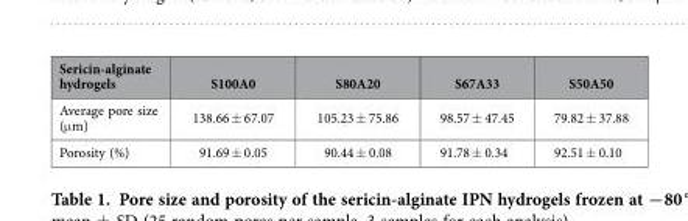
<table><thead><tr><td>Sericin-alginate hydrogels</td><td>S100A0</td><td>S80A20</td><td>S67A33</td><td>S50A50</td></tr></thead><tbody><tr><td>Average pore size (μ m)</td><td>138.66 ± 67.07</td><td>105.23 ± 75.86</td><td>98.57 ± 47.45</td><td>79.82 ± 37.88</td></tr><tr><td>Porosity (%)</td><td>91.69 ± 0.05</td><td>90.44 ± 0.08</td><td>91.78 ± 0.34</td><td>92.51 ± 0.10</td></tr></tbody></table>